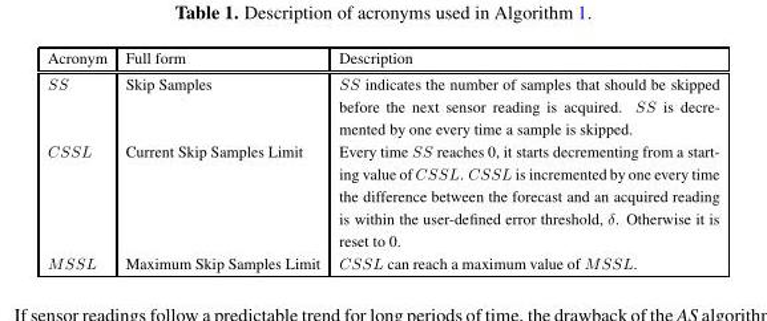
<table><thead><tr><td>Acronym</td><td>Full form</td><td>Description</td></tr></thead><tbody><tr><td>SS</td><td>Skip Samples</td><td>SS indicates the number of samples that should be skipped before the next sensor reading is acquired. SS is decre- mented by one every time a sample is skipped.</td></tr><tr><td>CSSL</td><td>Current Skip Samples Limit</td><td>Every time SS reaches 0, it starts decrementing from a start- ing value of CSSL. CSSL is incremented by one every time the difference between the forecast and an acquired reading is within the user-defined error threshold, δ. Otherwise it is reset to 0.</td></tr><tr><td>MSSL</td><td>Maximum Skip Samples Limit</td><td>CSSL can reach a maximum value of MSSL.</td></tr></tbody></table>